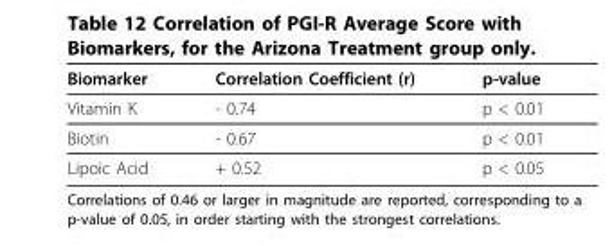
<table><thead><tr><td>Biomarker</td><td>Correlation Coefficient (r)</td><td>p-value</td></tr></thead><tbody><tr><td>Vitamin K</td><td>- 0.74</td><td>p &lt; 0.01</td></tr><tr><td>Biotin</td><td>- 0.67</td><td>p &lt; 0.01</td></tr><tr><td>Lipoic Acid</td><td>+ 0.52</td><td>p &lt; 0.05</td></tr></tbody></table>